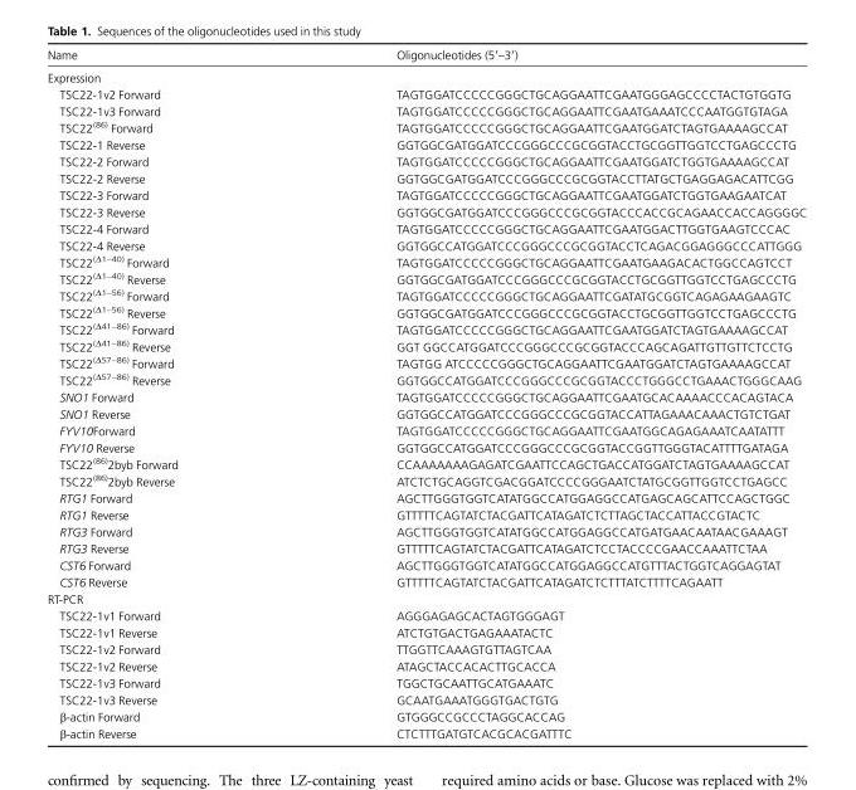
<table><thead><tr><td>Name</td><td>Oligonucleotides (5′–3′)</td></tr></thead><tbody><tr><td colspan="2">Expression</td></tr><tr><td>TSC22-1v2 Forward</td><td>TAGTGGATCCCCCGGGCTGCAGGAATTCGAATGGGAGCCCCTACTGTGGTG</td></tr><tr><td>TSC22-1v3 Forward</td><td>TAGTGGATCCCCCGGGCTGCAGGAATTCGAATGAAATCCCAATGGTGTAGA</td></tr><tr><td>TSC22<sup>(86)</sup> Forward</td><td>TAGTGGATCCCCCGGGCTGCAGGAATTCGAATGGATCTAGTGAAAAGCCAT</td></tr><tr><td>TSC22-1 Reverse</td><td>GGTGGCGATGGATCCCGGGCCCGCGGTACCTGCGGTTGGTCCTGAGCCCTG</td></tr><tr><td>TSC22-2 Forward</td><td>TAGTGGATCCCCCGGGCTGCAGGAATTCGAATGGATCTGGTGAAAAGCCAT</td></tr><tr><td>TSC22-2 Reverse</td><td>GGTGGCGATGGATCCCGGGCCCGCGGTACCTTATGCTGAGGAGACATTCGG</td></tr><tr><td>TSC22-3 Forward</td><td>TAGTGGATCCCCCGGGCTGCAGGAATTCGAATGGATCTGGTGAAGAATCAT</td></tr><tr><td>TSC22-3 Reverse</td><td>GGTGGCGATGGATCCCGGGCCCGCGGTACCCACCGCAGAACCACCAGGGGC</td></tr><tr><td>TSC22-4 Forward</td><td>TAGTGGATCCCCCGGGCTGCAGGAATTCGAATGGACTTGGTGAAGTCCCAC</td></tr><tr><td>TSC22-4 Reverse</td><td>GGTGGCCATGGATCCCGGGCCCGCGGTACCTCAGACGGAGGGCCCATTGGG</td></tr><tr><td>TSC22<sup>(Δ1−40)</sup> Forward</td><td>TAGTGGATCCCCCGGGCTGCAGGAATTCGAATGAAGACACTGGCCAGTCCT</td></tr><tr><td>TSC22<sup>(Δ1−40)</sup> Reverse</td><td>GGTGGCGATGGATCCCGGGCCCGCGGTACCTGCGGTTGGTCCTGAGCCCTG</td></tr><tr><td>TSC22<sup>(Δ1−56)</sup> Forward</td><td>TAGTGGATCCCCCGGGCTGCAGGAATTCGATATGCGGTCAGAGAAGAAGTC</td></tr><tr><td>TSC22<sup>(Δ1−56)</sup> Reverse</td><td>GGTGGCGATGGATCCCGGGCCCGCGGTACCTGCGGTTGGTCCTGAGCCCTG</td></tr><tr><td>TSC22<sup>(Δ41−86)</sup> Forward</td><td>TAGTGGATCCCCCGGGCTGCAGGAATTCGAATGGATCTAGTGAAAAGCCAT</td></tr><tr><td>TSC22<sup>(Δ41−86)</sup> Reverse</td><td>GGT GGCCATGGATCCCGGGCCCGCGGTACCCAGCAGATTGTTGTTCTCCTG</td></tr><tr><td>TSC22<sup>(Δ57−86)</sup> Forward</td><td>TAGTGG ATCCCCCGGGCTGCAGGAATTCGAATGGATCTAGTGAAAAGCCAT</td></tr><tr><td>TSC22<sup>(Δ57−86)</sup> Reverse</td><td>GGTGGCCATGGATCCCGGGCCCGCGGTACCCTGGGCCTGAAACTGGGCAAG</td></tr><tr><td>SNO1 Forward</td><td>TAGTGGATCCCCCGGGCTGCAGGAATTCGAATGCACAAAACCCACAGTACA</td></tr><tr><td>SNO1 Reverse</td><td>GGTGGCCATGGATCCCGGGCCCGCGGTACCATTAGAAACAAACTGTCTGAT</td></tr><tr><td>FYV10Forward</td><td>TAGTGGATCCCCCGGGCTGCAGGAATTCGAATGGCAGAGAAATCAATATTT</td></tr><tr><td>FYV10 Reverse</td><td>GGTGGCCATGGATCCCGGGCCCGCGGTACCGGTTGGGTACATTTTGATAGA</td></tr><tr><td>TSC22<sup>(86)</sup>2byb Forward</td><td>CCAAAAAAAGAGATCGAATTCCAGCTGACCATGGATCTAGTGAAAAGCCAT</td></tr><tr><td>TSC22<sup>(86)</sup>2byb Reverse</td><td>ATCTCTGCAGGTCGACGGATCCCCGGGAATCTATGCGGTTGGTCCTGAGCC</td></tr><tr><td>RTG1 Forward</td><td>AGCTTGGGTGGTCATATGGCCATGGAGGCCATGAGCAGCATTCCAGCTGGC</td></tr><tr><td>RTG1 Reverse</td><td>GTTTTTCAGTATCTACGATTCATAGATCTCTTAGCTACCATTACCGTACTC</td></tr><tr><td>RTG3 Forward</td><td>AGCTTGGGTGGTCATATGGCCATGGAGGCCATGATGAACAATAACGAAAGT</td></tr><tr><td>RTG3 Reverse</td><td>GTTTTTCAGTATCTACGATTCATAGATCTCCTACCCCGAACCAAATTCTAA</td></tr><tr><td>CST6 Forward</td><td>AGCTTGGGTGGTCATATGGCCATGGAGGCCATGTTTACTGGTCAGGAGTAT</td></tr><tr><td>CST6 Reverse</td><td>GTTTTTCAGTATCTACGATTCATAGATCTCTTTATCTTTTCAGAATT</td></tr><tr><td colspan="2">RT-PCR</td></tr><tr><td>TSC22-1v1 Forward</td><td>AGGGAGAGCACTAGTGGGAGT</td></tr><tr><td>TSC22-1v1 Reverse</td><td>ATCTGTGACTGAGAAATACTC</td></tr><tr><td>TSC22-1v2 Forward</td><td>TTGGTTCAAAGTGTTAGTCAA</td></tr><tr><td>TSC22-1v2 Reverse</td><td>ATAGCTACCACACTTGCACCA</td></tr><tr><td>TSC22-1v3 Forward</td><td>TGGCTGCAATTGCATGAAATC</td></tr><tr><td>TSC22-1v3 Reverse</td><td>GCAATGAAATGGGTGACTGTG</td></tr><tr><td>β-actin Forward</td><td>GTGGGCCGCCCTAGGCACCAG</td></tr><tr><td>β-actin Reverse</td><td>CTCTTTGATGTCACGCACGATTTC</td></tr></tbody></table>